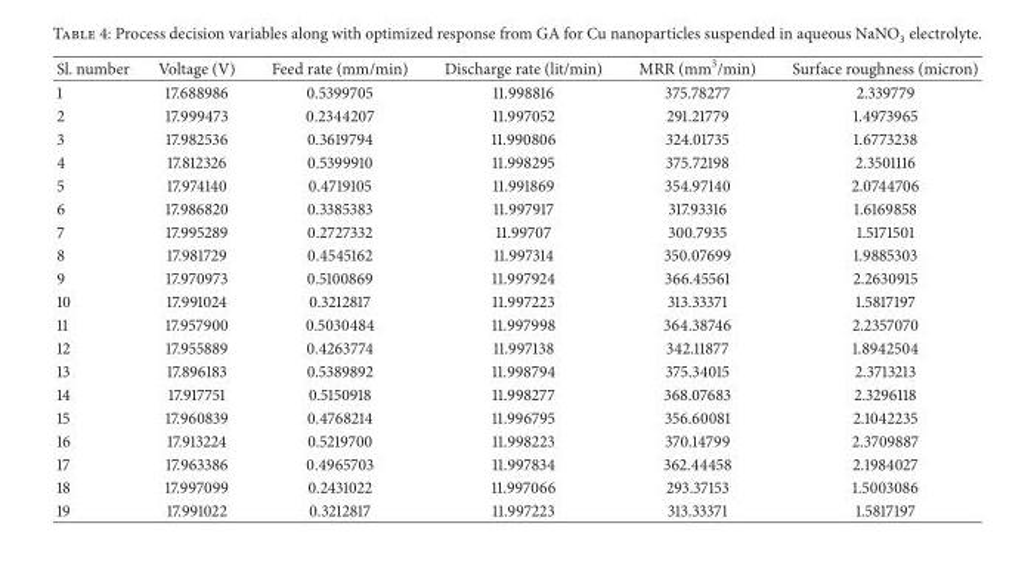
<table><thead><tr><td>Sl. number</td><td>Voltage (V)</td><td>Feed rate (mm/min)</td><td>Discharge rate (lit/min)</td><td>MRR (mm<sup>3</sup>/min)</td><td>Surface roughness (micron)</td></tr></thead><tbody><tr><td>1</td><td>17.688986</td><td>0.5399705</td><td>11.998816</td><td>375.78277</td><td>2.339779</td></tr><tr><td>2</td><td>17.999473</td><td>0.2344207</td><td>11.997052</td><td>291.21779</td><td>1.4973965</td></tr><tr><td>3</td><td>17.982536</td><td>0.3619794</td><td>11.990806</td><td>324.01735</td><td>1.6773238</td></tr><tr><td>4</td><td>17.812326</td><td>0.5399910</td><td>11.998295</td><td>375.72198</td><td>2.3501116</td></tr><tr><td>5</td><td>17.974140</td><td>0.4719105</td><td>11.991869</td><td>354.97140</td><td>2.0744706</td></tr><tr><td>6</td><td>17.986820</td><td>0.3385383</td><td>11.997917</td><td>317.93316</td><td>1.6169858</td></tr><tr><td>7</td><td>17.995289</td><td>0.2727332</td><td>11.99707</td><td>300.7935</td><td>1.5171501</td></tr><tr><td>8</td><td>17.981729</td><td>0.4545162</td><td>11.997314</td><td>350.07699</td><td>1.9885303</td></tr><tr><td>9</td><td>17.970973</td><td>0.5100869</td><td>11.997924</td><td>366.45561</td><td>2.2630915</td></tr><tr><td>10</td><td>17.991024</td><td>0.3212817</td><td>11.997223</td><td>313.33371</td><td>1.5817197</td></tr><tr><td>11</td><td>17.957900</td><td>0.5030484</td><td>11.997998</td><td>364.38746</td><td>2.2357070</td></tr><tr><td>12</td><td>17.955889</td><td>0.4263774</td><td>11.997138</td><td>342.11877</td><td>1.8942504</td></tr><tr><td>13</td><td>17.896183</td><td>0.5389892</td><td>11.998794</td><td>375.34015</td><td>2.3713213</td></tr><tr><td>14</td><td>17.917751</td><td>0.5150918</td><td>11.998277</td><td>368.07683</td><td>2.3296118</td></tr><tr><td>15</td><td>17.960839</td><td>0.4768214</td><td>11.996795</td><td>356.60081</td><td>2.1042235</td></tr><tr><td>16</td><td>17.913224</td><td>0.5219700</td><td>11.998223</td><td>370.14799</td><td>2.3709887</td></tr><tr><td>17</td><td>17.963386</td><td>0.4965703</td><td>11.997834</td><td>362.44458</td><td>2.1984027</td></tr><tr><td>18</td><td>17.997099</td><td>0.2431022</td><td>11.997066</td><td>293.37153</td><td>1.5003086</td></tr><tr><td>19</td><td>17.991022</td><td>0.3212817</td><td>11.997223</td><td>313.33371</td><td>1.5817197</td></tr></tbody></table>